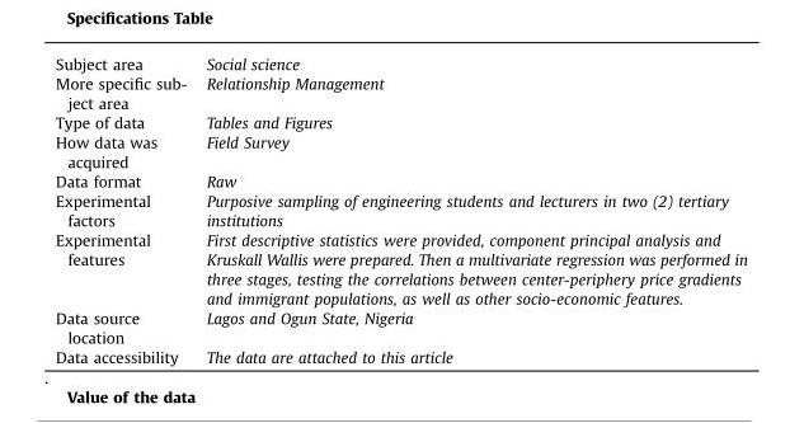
<table><tbody><tr><td>Subject area</td><td>Social science</td></tr><tr><td>More specific sub- ject area</td><td>Relationship Management</td></tr><tr><td>Type of data</td><td>Tables and Figures</td></tr><tr><td>How data was acquired</td><td>Field Survey</td></tr><tr><td>Data format</td><td>Raw</td></tr><tr><td>Experimental factors</td><td>Purposive sampling of engineering students and lecturers in two (2) tertiary institutions</td></tr><tr><td>Experimental features</td><td>First descriptive statistics were provided, component principal analysis and Kruskall Wallis were prepared. Then a multivariate regression was performed in three stages, testing the correlations between center-periphery price gradients and immigrant populations, as well as other socio-economic features.</td></tr><tr><td>Data source location</td><td>Lagos and Ogun State, Nigeria</td></tr><tr><td>Data accessibility</td><td>The data are attached to this article</td></tr></tbody></table>